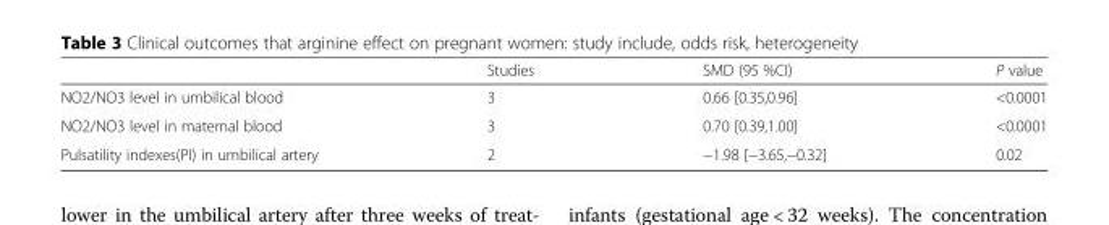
<table><thead><tr><td></td><td>Studies</td><td>SMD (95 %CI)</td><td>P value</td></tr></thead><tbody><tr><td>NO2/NO3 level in umbilical blood</td><td>3</td><td>0.66 [0.35,0.96]</td><td>&lt;0.0001</td></tr><tr><td>NO2/NO3 level in maternal blood</td><td>3</td><td>0.70 [0.39,1.00]</td><td>&lt;0.0001</td></tr><tr><td>Pulsatility indexes(PI) in umbilical artery</td><td>2</td><td>−1.98 [−3.65,−0.32]</td><td>0.02</td></tr></tbody></table>